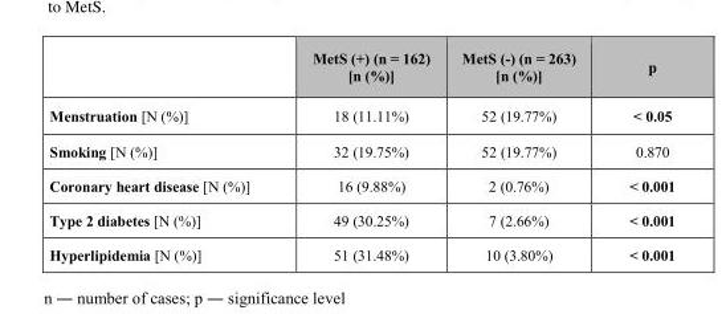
<table><thead><tr><td></td><td>MetS (+) (n = 162) [n (%)]</td><td>MetS (-) (n = 263) [n (%)]</td><td>p</td></tr></thead><tbody><tr><td>Menstruation [N (%)]</td><td>18 (11.11%)</td><td>52 (19.77%)</td><td>&lt; 0.05</td></tr><tr><td>Smoking [N (%)]</td><td>32 (19.75%)</td><td>52 (19.77%)</td><td>0.870</td></tr><tr><td>Coronary heart disease [N (%)]</td><td>16 (9.88%)</td><td>2 (0.76%)</td><td>&lt; 0.001</td></tr><tr><td>Type 2 diabetes [N (%)]</td><td>49 (30.25%)</td><td>7 (2.66%)</td><td>&lt; 0.001</td></tr><tr><td>Hyperlipidemia [N (%)]</td><td>51 (31.48%)</td><td>10 (3.80%)</td><td>&lt; 0.001</td></tr></tbody></table>